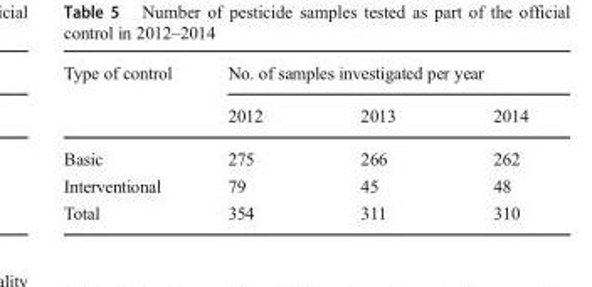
<table><thead><tr><td rowspan="2">Type of control</td><td colspan="3">No. of samples investigated per year</td></tr><tr><td>2012</td><td>2013</td><td>2014</td></tr></thead><tbody><tr><td>Basic</td><td>275</td><td>266</td><td>262</td></tr><tr><td>Interventional</td><td>79</td><td>45</td><td>48</td></tr><tr><td>Total</td><td>354</td><td>311</td><td>310</td></tr></tbody></table>